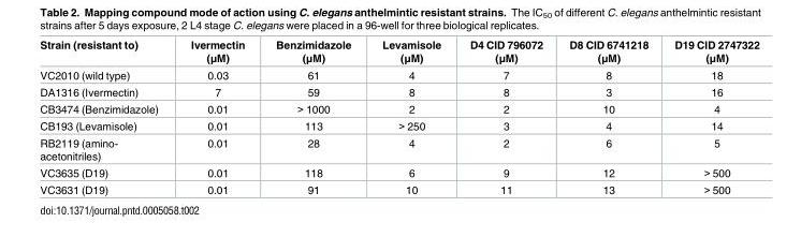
<table><thead><tr><td>Strain (resistant to)</td><td>Ivermectin (μM)</td><td>Benzimidazole (μM)</td><td>Levamisole (μM)</td><td>D4 CID 796072 (μM)</td><td>D8 CID 6741218 (μM)</td><td>D19 CID 2747322 (μM)</td></tr></thead><tbody><tr><td>VC2010 (wild type)</td><td>0.03</td><td>61</td><td>4</td><td>7</td><td>8</td><td>18</td></tr><tr><td>DA1316 (Ivermectin)</td><td>7</td><td>59</td><td>8</td><td>8</td><td>3</td><td>16</td></tr><tr><td>CB3474 (Benzimidazole)</td><td>0.01</td><td>&gt; 1000</td><td>2</td><td>2</td><td>10</td><td>4</td></tr><tr><td>CB193 (Levamisole)</td><td>0.01</td><td>113</td><td>&gt; 250</td><td>3</td><td>4</td><td>14</td></tr><tr><td>RB2119 (amino- acetonitriles)</td><td>0.01</td><td>28</td><td>4</td><td>2</td><td>6</td><td>5</td></tr><tr><td>VC3635 (D19)</td><td>0.01</td><td>118</td><td>6</td><td>9</td><td>12</td><td>&gt; 500</td></tr><tr><td>VC3631 (D19)</td><td>0.01</td><td>91</td><td>10</td><td>11</td><td>13</td><td>&gt; 500</td></tr></tbody></table>